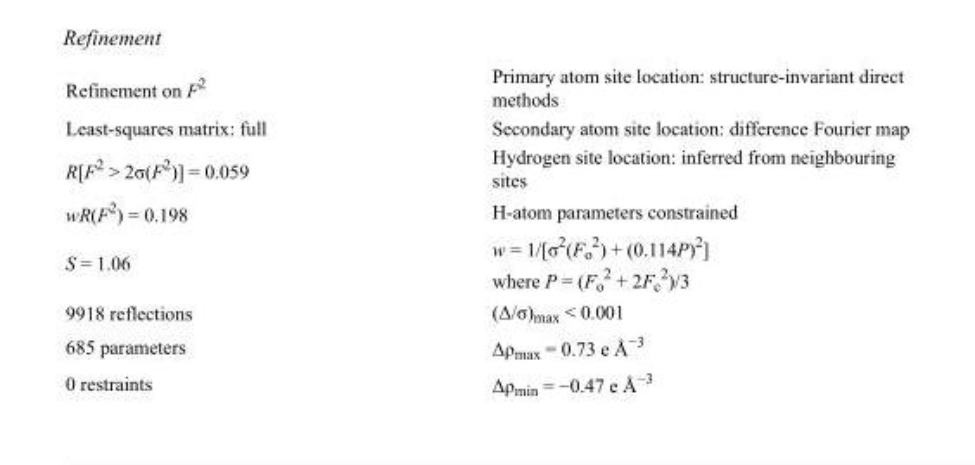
<table><tbody><tr><td>Refinement on F<sup>2</sup></td><td>Primary atom site location: structure-invariant direct methods</td></tr><tr><td>Least-squares matrix: full</td><td>Secondary atom site location: difference Fourier map</td></tr><tr><td>R[F<sup>2</sup> &gt; 2σ(F<sup>2</sup>)] = 0.059</td><td>Hydrogen site location: inferred from neighbouring sites</td></tr><tr><td>wR(F<sup>2</sup>) = 0.198</td><td>H-atom parameters constrained</td></tr><tr><td>S = 1.06</td><td>w = 1/[σ<sup>2</sup>(F<sub>o</sub> <sup>2</sup>) + (0.114P)<sup>2</sup>] where P = (F<sub>o</sub> <sup>2</sup> + 2F<sub>c</sub> <sup>2</sup>)/3</td></tr><tr><td>9918 reflections</td><td>(Δ/σ)<sub>max</sub> &lt; 0.001</td></tr><tr><td>685 parameters</td><td>Δρ<sub>max</sub> = 0.73 e Å<sup>−3</sup></td></tr><tr><td>0 restraints</td><td>Δρ<sub>min</sub> = −0.47 e Å<sup>−3</sup></td></tr></tbody></table>